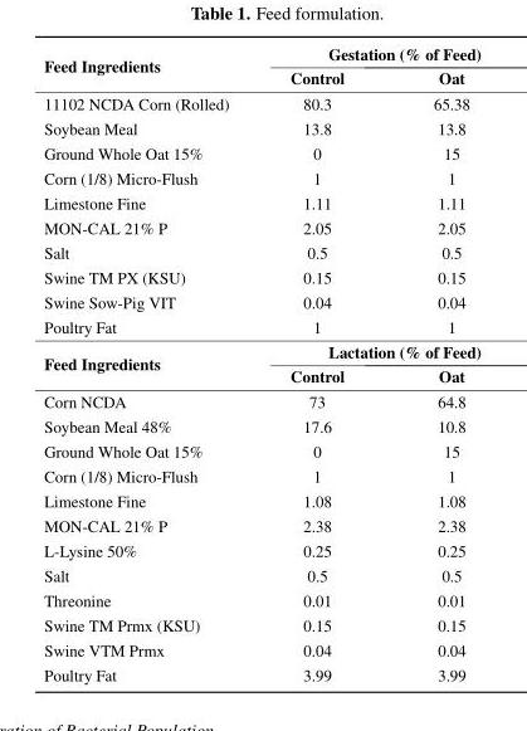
<table><tbody><tr><td rowspan="2">Feed Ingredients</td><td colspan="2">Gestation (% of Feed)</td></tr><tr><td>Control</td><td>Oat</td></tr><tr><td>11102 NCDA Corn (Rolled)</td><td>80.3</td><td>65.38</td></tr><tr><td>Soybean Meal</td><td>13.8</td><td>13.8</td></tr><tr><td>Ground Whole Oat 15%</td><td>0</td><td>15</td></tr><tr><td>Corn (1/8) Micro-Flush</td><td>1</td><td>1</td></tr><tr><td>Limestone Fine</td><td>1.11</td><td>1.11</td></tr><tr><td>MON-CAL 21% P</td><td>2.05</td><td>2.05</td></tr><tr><td>Salt</td><td>0.5</td><td>0.5</td></tr><tr><td>Swine TM PX (KSU)</td><td>0.15</td><td>0.15</td></tr><tr><td>Swine Sow-Pig VIT</td><td>0.04</td><td>0.04</td></tr><tr><td>Poultry Fat</td><td>1</td><td>1</td></tr><tr><td rowspan="2">Feed Ingredients</td><td colspan="2">Lactation (% of Feed)</td></tr><tr><td>Control</td><td>Oat</td></tr><tr><td>Corn NCDA</td><td>73</td><td>64.8</td></tr><tr><td>Soybean Meal 48%</td><td>17.6</td><td>10.8</td></tr><tr><td>Ground Whole Oat 15%</td><td>0</td><td>15</td></tr><tr><td>Corn (1/8) Micro-Flush</td><td>1</td><td>1</td></tr><tr><td>Limestone Fine</td><td>1.08</td><td>1.08</td></tr><tr><td>MON-CAL 21% P</td><td>2.38</td><td>2.38</td></tr><tr><td>L-Lysine 50%</td><td>0.25</td><td>0.25</td></tr><tr><td>Salt</td><td>0.5</td><td>0.5</td></tr><tr><td>Threonine</td><td>0.01</td><td>0.01</td></tr><tr><td>Swine TM Prmx (KSU)</td><td>0.15</td><td>0.15</td></tr><tr><td>Swine VTM Prmx</td><td>0.04</td><td>0.04</td></tr><tr><td>Poultry Fat</td><td>3.99</td><td>3.99</td></tr></tbody></table>